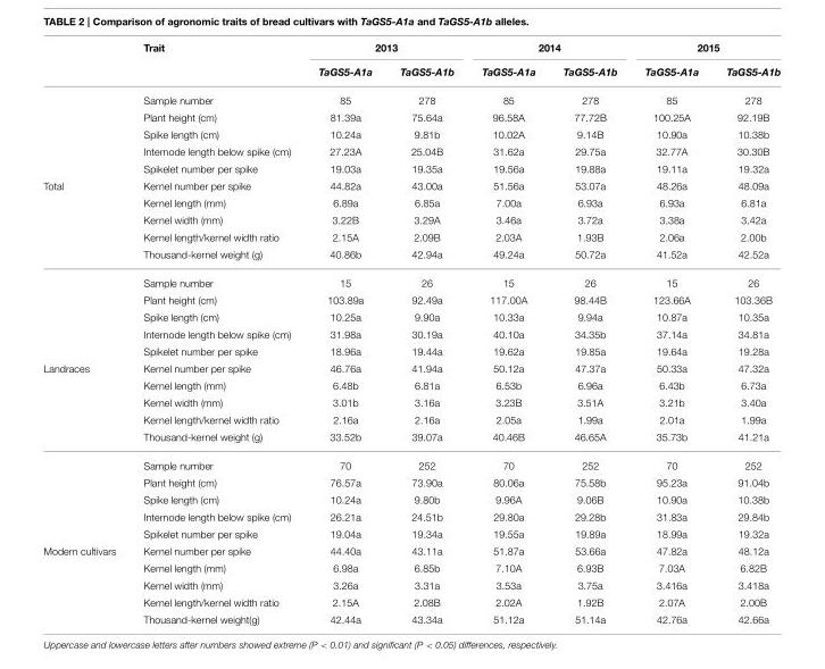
<table><thead><tr><td rowspan="2"></td><td rowspan="2">Trait</td><td colspan="2">2013</td><td colspan="2">2014</td><td colspan="2">2015</td></tr><tr><td>TaGS5-A1a</td><td>TaGS5-A1b</td><td>TaGS5-A1a</td><td>TaGS5-A1b</td><td>TaGS5-A1a</td><td>TaGS5-A1b</td></tr></thead><tbody><tr><td></td><td>Sample number</td><td>85</td><td>278</td><td>85</td><td>278</td><td>85</td><td>278</td></tr><tr><td></td><td>Plant height (cm)</td><td>81.39a</td><td>75.64a</td><td>96.58A</td><td>77.72B</td><td>100.25A</td><td>92.19B</td></tr><tr><td></td><td>Spike length (cm)</td><td>10.24a</td><td>9.81b</td><td>10.02A</td><td>9.14B</td><td>10.90a</td><td>10.38b</td></tr><tr><td></td><td>Internode length below spike (cm)</td><td>27.23A</td><td>25.04B</td><td>31.62a</td><td>29.75a</td><td>32.77A</td><td>30.30B</td></tr><tr><td></td><td>Spikelet number per spike</td><td>19.03a</td><td>19.35a</td><td>19.56a</td><td>19.88a</td><td>19.11a</td><td>19.32a</td></tr><tr><td rowspan="10">Total</td><td>Kernel number per spike</td><td>44.82a</td><td>43.00a</td><td>51.56a</td><td>53.07a</td><td>48.26a</td><td>48.09a</td></tr><tr><td>Kernel length (mm)</td><td>6.89a</td><td>6.85a</td><td>7.00a</td><td>6.93a</td><td>6.93a</td><td>6.81a</td></tr><tr><td>Kernel width (mm)</td><td>3.22B</td><td>3.29A</td><td>3.46a</td><td>3.72a</td><td>3.38a</td><td>3.42a</td></tr><tr><td>Kernel length/kernel width ratio</td><td>2.15A</td><td>2.09B</td><td>2.03A</td><td>1.93B</td><td>2.06a</td><td>2.00b</td></tr><tr><td>Thousand-kernel weight (g)</td><td>40.86b</td><td>42.94a</td><td>49.24a</td><td>50.72a</td><td>41.52a</td><td>42.52a</td></tr><tr><td>Sample number</td><td>15</td><td>26</td><td>15</td><td>26</td><td>15</td><td>26</td></tr><tr><td>Plant height (cm)</td><td>103.89a</td><td>92.49a</td><td>117.00A</td><td>98.44B</td><td>123.66A</td><td>103.36B</td></tr><tr><td>Spike length (cm)</td><td>10.25a</td><td>9.90a</td><td>10.33a</td><td>9.94a</td><td>10.87a</td><td>10.35a</td></tr><tr><td>Internode length below spike (cm)</td><td>31.98a</td><td>30.19a</td><td>40.10a</td><td>34.35b</td><td>37.14a</td><td>34.81a</td></tr><tr><td>Spikelet number per spike</td><td>18.96a</td><td>19.44a</td><td>19.62a</td><td>19.85a</td><td>19.64a</td><td>19.28a</td></tr><tr><td rowspan="10">Landraces</td><td>Kernel number per spike</td><td>46.76a</td><td>41.94a</td><td>50.12a</td><td>47.37a</td><td>50.33a</td><td>47.32a</td></tr><tr><td>Kernel length (mm)</td><td>6.48b</td><td>6.81a</td><td>6.53b</td><td>6.96a</td><td>6.43b</td><td>6.73a</td></tr><tr><td>Kernel width (mm)</td><td>3.01b</td><td>3.16a</td><td>3.23B</td><td>3.51A</td><td>3.21b</td><td>3.40a</td></tr><tr><td>Kernel length/kernel width ratio</td><td>2.16a</td><td>2.16a</td><td>2.05a</td><td>1.99a</td><td>2.01a</td><td>1.99a</td></tr><tr><td>Thousand-kernel weight (g)</td><td>33.52b</td><td>39.07a</td><td>40.46B</td><td>46.65A</td><td>35.73b</td><td>41.21a</td></tr><tr><td>Sample number</td><td>70</td><td>252</td><td>70</td><td>252</td><td>70</td><td>252</td></tr><tr><td>Plant height (cm)</td><td>76.57a</td><td>73.90a</td><td>80.06a</td><td>75.58b</td><td>95.23a</td><td>91.04b</td></tr><tr><td>Spike length (cm)</td><td>10.24a</td><td>9.80b</td><td>9.96A</td><td>9.06B</td><td>10.90a</td><td>10.38b</td></tr><tr><td>Internode length below spike (cm)</td><td>26.21a</td><td>24.51b</td><td>29.80a</td><td>29.28b</td><td>31.83a</td><td>29.84b</td></tr><tr><td>Spikelet number per spike</td><td>19.04a</td><td>19.34a</td><td>19.55a</td><td>19.89a</td><td>18.99a</td><td>19.32a</td></tr><tr><td rowspan="5">Modern cultivars</td><td>Kernel number per spike</td><td>44.40a</td><td>43.11a</td><td>51.87a</td><td>53.66a</td><td>47.82a</td><td>48.12a</td></tr><tr><td>Kernel length (mm)</td><td>6.98a</td><td>6.85b</td><td>7.10A</td><td>6.93B</td><td>7.03A</td><td>6.82B</td></tr><tr><td>Kernel width (mm)</td><td>3.26a</td><td>3.31a</td><td>3.53a</td><td>3.75a</td><td>3.416a</td><td>3.418a</td></tr><tr><td>Kernel length/kernel width ratio</td><td>2.15A</td><td>2.08B</td><td>2.02A</td><td>1.92B</td><td>2.07A</td><td>2.00B</td></tr><tr><td>Thousand-kernel weight(g)</td><td>42.44a</td><td>43.34a</td><td>51.12a</td><td>51.14a</td><td>42.76a</td><td>42.66a</td></tr></tbody></table>